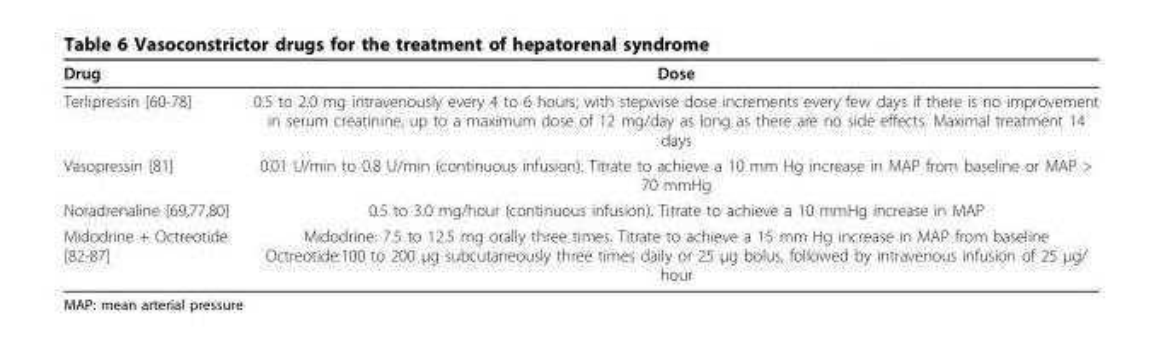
<table><thead><tr><td>Drug</td><td>Dose</td></tr></thead><tbody><tr><td>Terlipressin [60-78]</td><td>0.5 to 2.0 mg intravenously every 4 to 6 hours; with stepwise dose increments every few days if there is no improvement in serum creatinine, up to a maximum dose of 12 mg/day as long as there are no side effects. Maximal treatment 14 days</td></tr><tr><td>Vasopressin [81]</td><td>0.01 U/min to 0.8 U/min (continuous infusion). Titrate to achieve a 10 mm Hg increase in MAP from baseline or MAP &gt; 70 mmHg</td></tr><tr><td>Noradrenaline [69,77,80]</td><td>0.5 to 3.0 mg/hour (continuous infusion). Titrate to achieve a 10 mmHg increase in MAP</td></tr><tr><td>Midodrine + Octreotide [82-87]</td><td>Midodrine: 7.5 to 12.5 mg orally three times. Titrate to achieve a 15 mm Hg increase in MAP from baseline Octreotide:100 to 200 μg subcutaneously three times daily or 25 μg bolus, followed by intravenous infusion of 25 μg/ hour</td></tr></tbody></table>